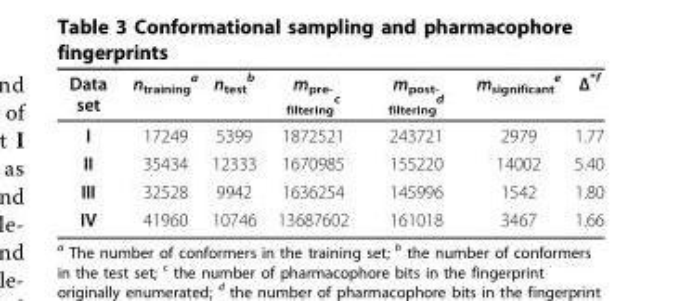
<table><thead><tr><td>Data set</td><td>n<sub>training</sub> <sup>a</sup></td><td>n<sub>test</sub> <sup>b</sup></td><td>m<sub>pre- filtering</sub> <sup>c</sup></td><td>m<sub>post- filtering</sub> <sup>d</sup></td><td>m<sub>significant</sub> <sup>e</sup></td><td>Δ<sup>*f</sup></td></tr></thead><tbody><tr><td>I</td><td>17249</td><td>5399</td><td>1872521</td><td>243721</td><td>2979</td><td>1.77</td></tr><tr><td>II</td><td>35434</td><td>12333</td><td>1670985</td><td>155220</td><td>14002</td><td>5.40</td></tr><tr><td>III</td><td>32528</td><td>9942</td><td>1636254</td><td>145996</td><td>1542</td><td>1.80</td></tr><tr><td>IV</td><td>41960</td><td>10746</td><td>13687602</td><td>161018</td><td>3467</td><td>1.66</td></tr></tbody></table>